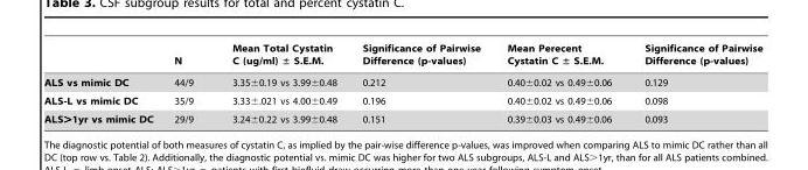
<table><thead><tr><td></td><td>N</td><td>Mean Total Cystatin C (ug/ml) ± S.E.M.</td><td>Significance of Pairwise Difference (p-values)</td><td>Mean Perecent Cystatin C ± S.E.M.</td><td>Significance of Pairwise Difference (p-values)</td></tr></thead><tbody><tr><td>ALS vs mimic DC</td><td>44/9</td><td>3.35±0.19 vs 3.99±0.48</td><td>0.212</td><td>0.40±0.02 vs 0.49±0.06</td><td>0.129</td></tr><tr><td>ALS-L vs mimic DC</td><td>35/9</td><td>3.33±.021 vs 4.00±0.49</td><td>0.196</td><td>0.40±0.02 vs 0.49±0.06</td><td>0.098</td></tr><tr><td>ALS&gt;1yr vs mimic DC</td><td>29/9</td><td>3.24±0.22 vs 3.99±0.48</td><td>0.151</td><td>0.39±0.03 vs 0.49±0.06</td><td>0.093</td></tr></tbody></table>